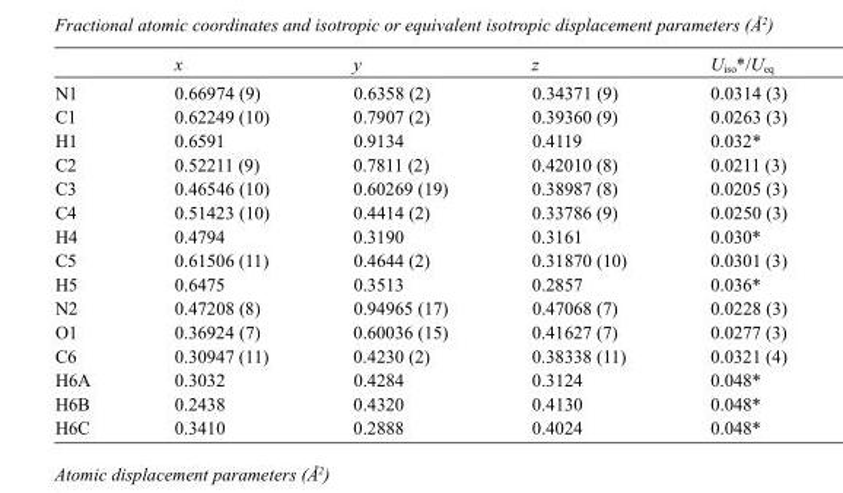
<table><thead><tr><td></td><td>x</td><td>y</td><td>z</td><td>U<sub>iso</sub>*/U<sub>eq</sub></td></tr></thead><tbody><tr><td>N1</td><td>0.66974 (9)</td><td>0.6358 (2)</td><td>0.34371 (9)</td><td>0.0314 (3)</td></tr><tr><td>C1</td><td>0.62249 (10)</td><td>0.7907 (2)</td><td>0.39360 (9)</td><td>0.0263 (3)</td></tr><tr><td>H1</td><td>0.6591</td><td>0.9134</td><td>0.4119</td><td>0.032*</td></tr><tr><td>C2</td><td>0.52211 (9)</td><td>0.7811 (2)</td><td>0.42010 (8)</td><td>0.0211 (3)</td></tr><tr><td>C3</td><td>0.46546 (10)</td><td>0.60269 (19)</td><td>0.38987 (8)</td><td>0.0205 (3)</td></tr><tr><td>C4</td><td>0.51423 (10)</td><td>0.4414 (2)</td><td>0.33786 (9)</td><td>0.0250 (3)</td></tr><tr><td>H4</td><td>0.4794</td><td>0.3190</td><td>0.3161</td><td>0.030*</td></tr><tr><td>C5</td><td>0.61506 (11)</td><td>0.4644 (2)</td><td>0.31870 (10)</td><td>0.0301 (3)</td></tr><tr><td>H5</td><td>0.6475</td><td>0.3513</td><td>0.2857</td><td>0.036*</td></tr><tr><td>N2</td><td>0.47208 (8)</td><td>0.94965 (17)</td><td>0.47068 (7)</td><td>0.0228 (3)</td></tr><tr><td>O1</td><td>0.36924 (7)</td><td>0.60036 (15)</td><td>0.41627 (7)</td><td>0.0277 (3)</td></tr><tr><td>C6</td><td>0.30947 (11)</td><td>0.4230 (2)</td><td>0.38338 (11)</td><td>0.0321 (4)</td></tr><tr><td>H6A</td><td>0.3032</td><td>0.4284</td><td>0.3124</td><td>0.048*</td></tr><tr><td>H6B</td><td>0.2438</td><td>0.4320</td><td>0.4130</td><td>0.048*</td></tr><tr><td>H6C</td><td>0.3410</td><td>0.2888</td><td>0.4024</td><td>0.048*</td></tr></tbody></table>